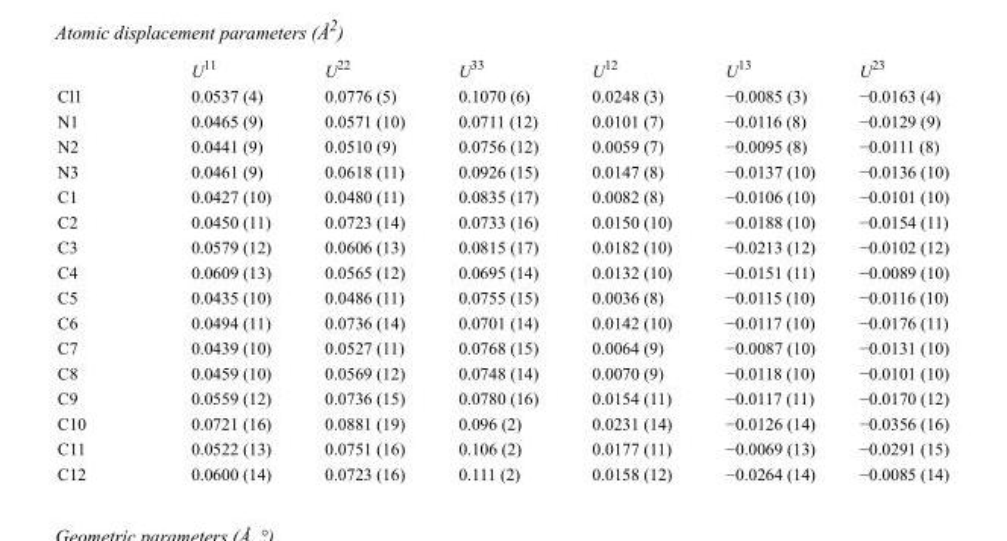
<table><thead><tr><td></td><td>U<sup>11</sup></td><td>U<sup>22</sup></td><td>U<sup>33</sup></td><td>U<sup>12</sup></td><td>U<sup>13</sup></td><td>U<sup>23</sup></td></tr></thead><tbody><tr><td>Cl1</td><td>0.0537 (4)</td><td>0.0776 (5)</td><td>0.1070 (6)</td><td>0.0248 (3)</td><td>−0.0085 (3)</td><td>−0.0163 (4)</td></tr><tr><td>N1</td><td>0.0465 (9)</td><td>0.0571 (10)</td><td>0.0711 (12)</td><td>0.0101 (7)</td><td>−0.0116 (8)</td><td>−0.0129 (9)</td></tr><tr><td>N2</td><td>0.0441 (9)</td><td>0.0510 (9)</td><td>0.0756 (12)</td><td>0.0059 (7)</td><td>−0.0095 (8)</td><td>−0.0111 (8)</td></tr><tr><td>N3</td><td>0.0461 (9)</td><td>0.0618 (11)</td><td>0.0926 (15)</td><td>0.0147 (8)</td><td>−0.0137 (10)</td><td>−0.0136 (10)</td></tr><tr><td>C1</td><td>0.0427 (10)</td><td>0.0480 (11)</td><td>0.0835 (17)</td><td>0.0082 (8)</td><td>−0.0106 (10)</td><td>−0.0101 (10)</td></tr><tr><td>C2</td><td>0.0450 (11)</td><td>0.0723 (14)</td><td>0.0733 (16)</td><td>0.0150 (10)</td><td>−0.0188 (10)</td><td>−0.0154 (11)</td></tr><tr><td>C3</td><td>0.0579 (12)</td><td>0.0606 (13)</td><td>0.0815 (17)</td><td>0.0182 (10)</td><td>−0.0213 (12)</td><td>−0.0102 (12)</td></tr><tr><td>C4</td><td>0.0609 (13)</td><td>0.0565 (12)</td><td>0.0695 (14)</td><td>0.0132 (10)</td><td>−0.0151 (11)</td><td>−0.0089 (10)</td></tr><tr><td>C5</td><td>0.0435 (10)</td><td>0.0486 (11)</td><td>0.0755 (15)</td><td>0.0036 (8)</td><td>−0.0115 (10)</td><td>−0.0116 (10)</td></tr><tr><td>C6</td><td>0.0494 (11)</td><td>0.0736 (14)</td><td>0.0701 (14)</td><td>0.0142 (10)</td><td>−0.0117 (10)</td><td>−0.0176 (11)</td></tr><tr><td>C7</td><td>0.0439 (10)</td><td>0.0527 (11)</td><td>0.0768 (15)</td><td>0.0064 (9)</td><td>−0.0087 (10)</td><td>−0.0131 (10)</td></tr><tr><td>C8</td><td>0.0459 (10)</td><td>0.0569 (12)</td><td>0.0748 (14)</td><td>0.0070 (9)</td><td>−0.0118 (10)</td><td>−0.0101 (10)</td></tr><tr><td>C9</td><td>0.0559 (12)</td><td>0.0736 (15)</td><td>0.0780 (16)</td><td>0.0154 (11)</td><td>−0.0117 (11)</td><td>−0.0170 (12)</td></tr><tr><td>C10</td><td>0.0721 (16)</td><td>0.0881 (19)</td><td>0.096 (2)</td><td>0.0231 (14)</td><td>−0.0126 (14)</td><td>−0.0356 (16)</td></tr><tr><td>C11</td><td>0.0522 (13)</td><td>0.0751 (16)</td><td>0.106 (2)</td><td>0.0177 (11)</td><td>−0.0069 (13)</td><td>−0.0291 (15)</td></tr><tr><td>C12</td><td>0.0600 (14)</td><td>0.0723 (16)</td><td>0.111 (2)</td><td>0.0158 (12)</td><td>−0.0264 (14)</td><td>−0.0085 (14)</td></tr></tbody></table>